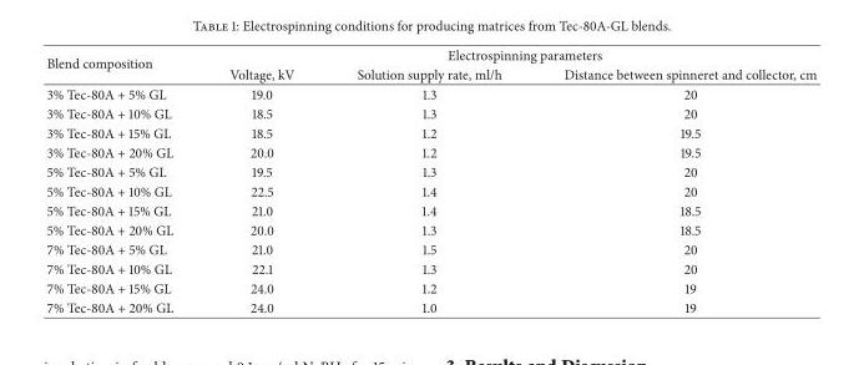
<table><thead><tr><td rowspan="2">Blend composition</td><td colspan="3">Electrospinning parameters</td></tr><tr><td>Voltage, kV</td><td>Solution supply rate, ml/h</td><td>Distance between spinneret and collector, cm</td></tr></thead><tbody><tr><td>3% Tec-80A + 5% GL</td><td>19.0</td><td>1.3</td><td>20</td></tr><tr><td>3% Tec-80A + 10% GL</td><td>18.5</td><td>1.3</td><td>20</td></tr><tr><td>3% Tec-80A + 15% GL</td><td>18.5</td><td>1.2</td><td>19.5</td></tr><tr><td>3% Tec-80A + 20% GL</td><td>20.0</td><td>1.2</td><td>19.5</td></tr><tr><td>5% Tec-80A + 5% GL</td><td>19.5</td><td>1.3</td><td>20</td></tr><tr><td>5% Tec-80A + 10% GL</td><td>22.5</td><td>1.4</td><td>20</td></tr><tr><td>5% Tec-80A + 15% GL</td><td>21.0</td><td>1.4</td><td>18.5</td></tr><tr><td>5% Tec-80A + 20% GL</td><td>20.0</td><td>1.3</td><td>18.5</td></tr><tr><td>7% Tec-80A + 5% GL</td><td>21.0</td><td>1.5</td><td>20</td></tr><tr><td>7% Tec-80A + 10% GL</td><td>22.1</td><td>1.3</td><td>20</td></tr><tr><td>7% Tec-80A + 15% GL</td><td>24.0</td><td>1.2</td><td>19</td></tr><tr><td>7% Tec-80A + 20% GL</td><td>24.0</td><td>1.0</td><td>19</td></tr></tbody></table>